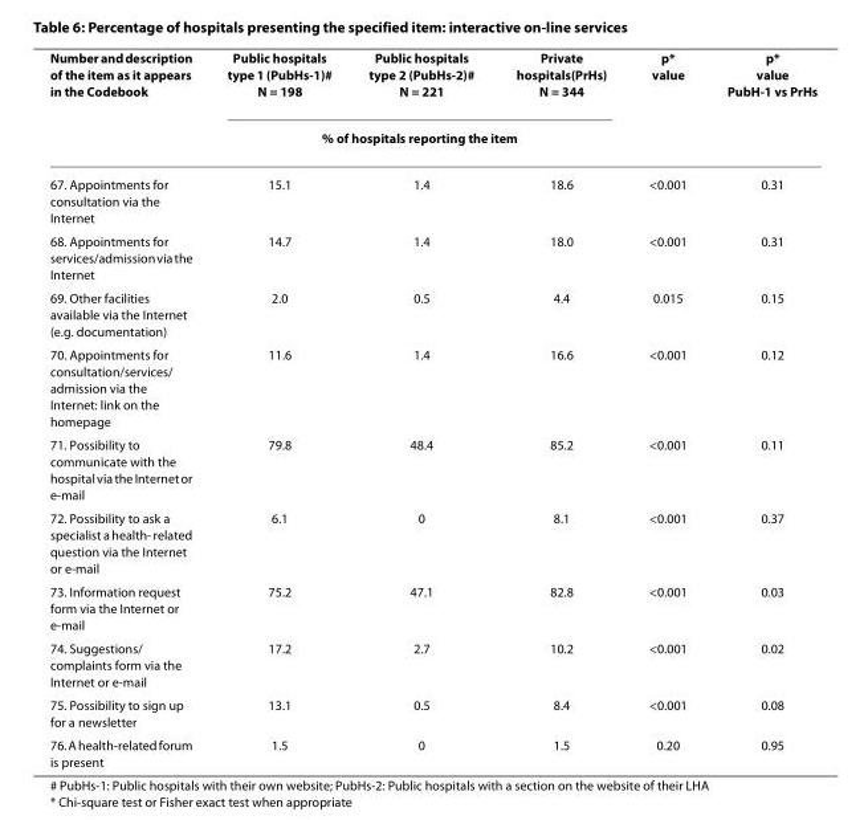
<table><thead><tr><td rowspan="2">Number and description of the item as it appears in the Codebook</td><td>Public hospitals type 1 (PubHs-1)# N = 198</td><td>Public hospitals type 2 (PubHs-2)# N = 221</td><td>Private hospitals(PrHs) N = 344</td><td rowspan="2">p* value</td><td rowspan="2">p* value PubH-1 vs PrHs</td></tr><tr><td colspan="3">% of hospitals reporting the item</td></tr></thead><tbody><tr><td>67. Appointments for consultation via the Internet</td><td>15.1</td><td>1.4</td><td>18.6</td><td>&lt;0.001</td><td>0.31</td></tr><tr><td>68. Appointments for services/admission via the Internet</td><td>14.7</td><td>1.4</td><td>18.0</td><td>&lt;0.001</td><td>0.31</td></tr><tr><td>69. Other facilities available via the Internet (e.g. documentation)</td><td>2.0</td><td>0.5</td><td>4.4</td><td>0.015</td><td>0.15</td></tr><tr><td>70. Appointments for consultation/services/ admission via the Internet: link on the homepage</td><td>11.6</td><td>1.4</td><td>16.6</td><td>&lt;0.001</td><td>0.12</td></tr><tr><td>71. Possibility to communicate with the hospital via the Internet or e-mail</td><td>79.8</td><td>48.4</td><td>85.2</td><td>&lt;0.001</td><td>0.11</td></tr><tr><td>72. Possibility to ask a specialist a health- related question via the Internet or e-mail</td><td>6.1</td><td>0</td><td>8.1</td><td>&lt;0.001</td><td>0.37</td></tr><tr><td>73. Information request form via the Internet or e-mail</td><td>75.2</td><td>47.1</td><td>82.8</td><td>&lt;0.001</td><td>0.03</td></tr><tr><td>74. Suggestions/ complaints form via the Internet or e-mail</td><td>17.2</td><td>2.7</td><td>10.2</td><td>&lt;0.001</td><td>0.02</td></tr><tr><td>75. Possibility to sign up for a newsletter</td><td>13.1</td><td>0.5</td><td>8.4</td><td>&lt;0.001</td><td>0.08</td></tr><tr><td>76. A health-related forum is present</td><td>1.5</td><td>0</td><td>1.5</td><td>0.20</td><td>0.95</td></tr></tbody></table>